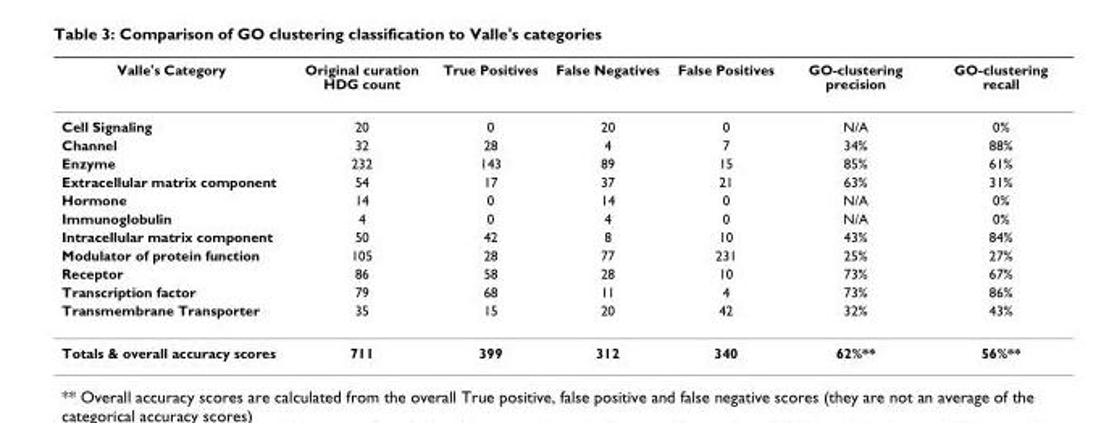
<table><thead><tr><td>Valle&#x27;s Category</td><td>Original curation HDG count</td><td>True Positives</td><td>False Negatives</td><td>False Positives</td><td>GO-clustering precision</td><td>GO-clustering recall</td></tr></thead><tbody><tr><td>Cell Signaling</td><td>20</td><td>0</td><td>20</td><td>0</td><td>N/A</td><td>0%</td></tr><tr><td>Channel</td><td>32</td><td>28</td><td>4</td><td>7</td><td>34%</td><td>88%</td></tr><tr><td>Enzyme</td><td>232</td><td>143</td><td>89</td><td>15</td><td>85%</td><td>61%</td></tr><tr><td>Extracellular matrix component</td><td>54</td><td>17</td><td>37</td><td>21</td><td>63%</td><td>31%</td></tr><tr><td>Hormone</td><td>14</td><td>0</td><td>14</td><td>0</td><td>N/A</td><td>0%</td></tr><tr><td>Immunoglobulin</td><td>4</td><td>0</td><td>4</td><td>0</td><td>N/A</td><td>0%</td></tr><tr><td>Intracellular matrix component</td><td>50</td><td>42</td><td>8</td><td>10</td><td>43%</td><td>84%</td></tr><tr><td>Modulator of protein function</td><td>105</td><td>28</td><td>77</td><td>231</td><td>25%</td><td>27%</td></tr><tr><td>Receptor</td><td>86</td><td>58</td><td>28</td><td>10</td><td>73%</td><td>67%</td></tr><tr><td>Transcription factor</td><td>79</td><td>68</td><td>11</td><td>4</td><td>73%</td><td>86%</td></tr><tr><td>Transmembrane Transporter</td><td>35</td><td>15</td><td>20</td><td>42</td><td>32%</td><td>43%</td></tr><tr><td>Totals &amp; overall accuracy scores</td><td>711</td><td>399</td><td>312</td><td>340</td><td>62%**</td><td>56%**</td></tr></tbody></table>